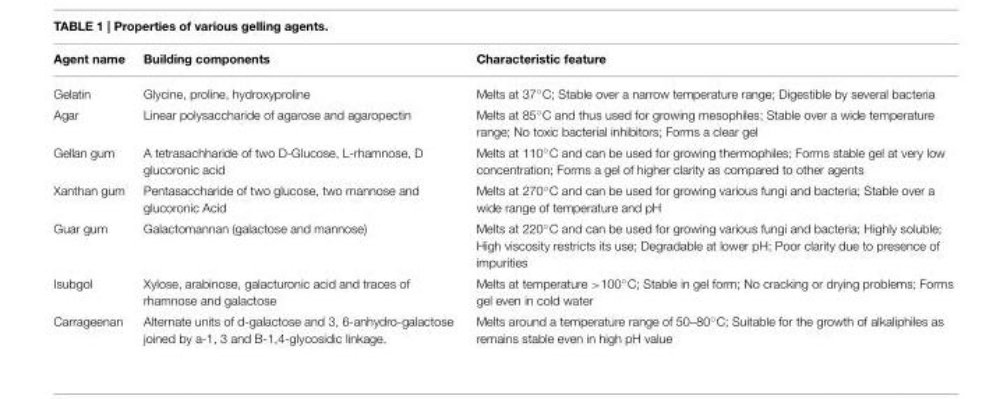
<table><thead><tr><td>Agent name</td><td>Building components</td><td>Characteristic feature</td></tr></thead><tbody><tr><td>Gelatin</td><td>Glycine, proline, hydroxyproline</td><td>Melts at 37◦C; Stable over a narrow temperature range; Digestible by several bacteria</td></tr><tr><td>Agar</td><td>Linear polysaccharide of agarose and agaropectin</td><td>Melts at 85◦C and thus used for growing mesophiles; Stable over a wide temperature range; No toxic bacterial inhibitors; Forms a clear gel</td></tr><tr><td>Gellan gum</td><td>A tetrasachharide of two D-Glucose, L-rhamnose, D glucoronic acid</td><td>Melts at 110◦C and can be used for growing thermophiles; Forms stable gel at very low concentration; Forms a gel of higher clarity as compared to other agents</td></tr><tr><td>Xanthan gum</td><td>Pentasaccharide of two glucose, two mannose and glucoronic Acid</td><td>Melts at 270◦C and can be used for growing various fungi and bacteria; Stable over a wide range of temperature and pH</td></tr><tr><td>Guar gum</td><td>Galactomannan (galactose and mannose)</td><td>Melts at 220◦C and can be used for growing various fungi and bacteria; Highly soluble; High viscosity restricts its use; Degradable at lower pH; Poor clarity due to presence of impurities</td></tr><tr><td>Isubgol</td><td>Xylose, arabinose, galacturonic acid and traces of rhamnose and galactose</td><td>Melts at temperature &gt;100◦C; Stable in gel form; No cracking or drying problems; Forms gel even in cold water</td></tr><tr><td>Carrageenan</td><td>Alternate units of d-galactose and 3, 6-anhydro-galactose joined by a-1, 3 and B-1,4-glycosidic linkage.</td><td>Melts around a temperature range of 50–80◦C; Suitable for the growth of alkaliphiles as remains stable even in high pH value</td></tr></tbody></table>